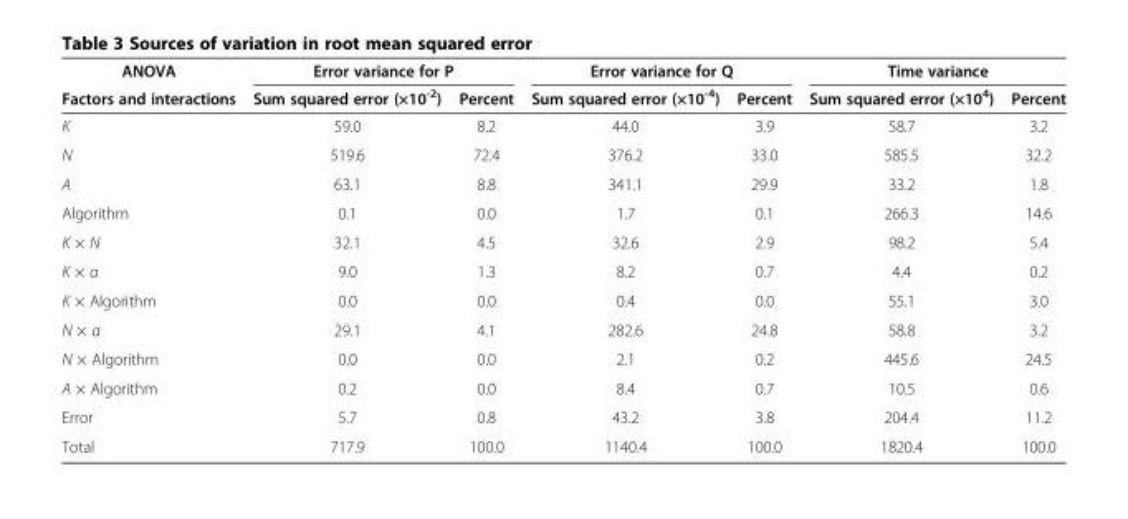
<table><thead><tr><td rowspan="2">ANOVA Factors and interactions</td><td colspan="2">Error variance for P</td><td colspan="2">Error variance for Q</td><td colspan="2">Time variance</td></tr><tr><td>Sum squared error (×10<sup>-2</sup>)</td><td>Percent</td><td>Sum squared error (×10<sup>-4</sup>)</td><td>Percent</td><td>Sum squared error (×10<sup>4</sup>)</td><td>Percent</td></tr></thead><tbody><tr><td>K</td><td>59.0</td><td>8.2</td><td>44.0</td><td>3.9</td><td>58.7</td><td>3.2</td></tr><tr><td>N</td><td>519.6</td><td>72.4</td><td>376.2</td><td>33.0</td><td>585.5</td><td>32.2</td></tr><tr><td>Α</td><td>63.1</td><td>8.8</td><td>341.1</td><td>29.9</td><td>33.2</td><td>1.8</td></tr><tr><td>Algorithm</td><td>0.1</td><td>0.0</td><td>1.7</td><td>0.1</td><td>266.3</td><td>14.6</td></tr><tr><td>K × N</td><td>32.1</td><td>4.5</td><td>32.6</td><td>2.9</td><td>98.2</td><td>5.4</td></tr><tr><td>K × α</td><td>9.0</td><td>1.3</td><td>8.2</td><td>0.7</td><td>4.4</td><td>0.2</td></tr><tr><td>K × Algorithm</td><td>0.0</td><td>0.0</td><td>0.4</td><td>0.0</td><td>55.1</td><td>3.0</td></tr><tr><td>N × α</td><td>29.1</td><td>4.1</td><td>282.6</td><td>24.8</td><td>58.8</td><td>3.2</td></tr><tr><td>N × Algorithm</td><td>0.0</td><td>0.0</td><td>2.1</td><td>0.2</td><td>445.6</td><td>24.5</td></tr><tr><td>Α × Algorithm</td><td>0.2</td><td>0.0</td><td>8.4</td><td>0.7</td><td>10.5</td><td>0.6</td></tr><tr><td>Error</td><td>5.7</td><td>0.8</td><td>43.2</td><td>3.8</td><td>204.4</td><td>11.2</td></tr><tr><td>Total</td><td>717.9</td><td>100.0</td><td>1140.4</td><td>100.0</td><td>1820.4</td><td>100.0</td></tr></tbody></table>